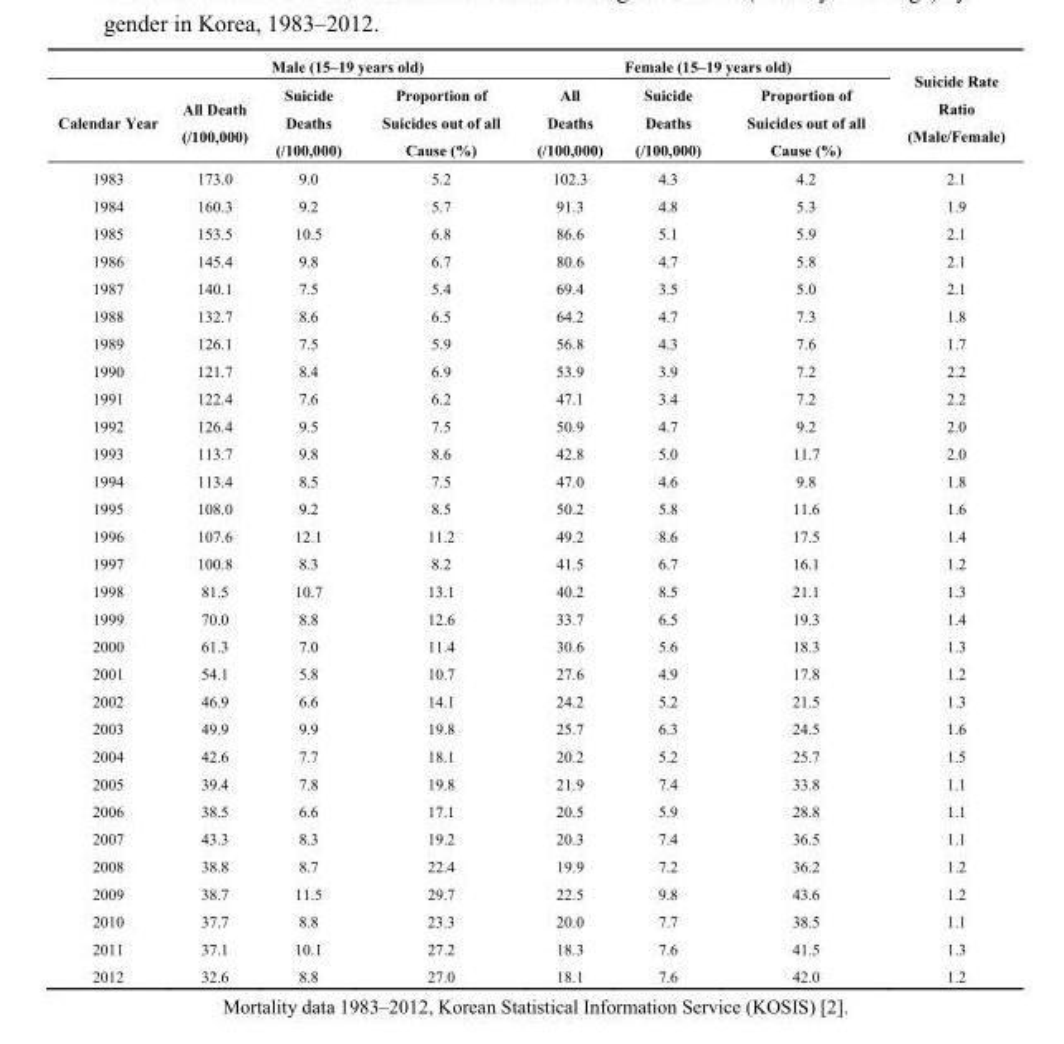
<table><thead><tr><td rowspan="2">Calendar Year</td><td colspan="3">Male (15–19 years old)</td><td colspan="3">Female (15–19 years old)</td><td rowspan="2">Suicide Rate Ratio (Male/Female)</td></tr><tr><td>All Death (/100,000)</td><td>Suicide Deaths (/100,000)</td><td>Proportion of Suicides out of all Cause (%)</td><td>All Deaths (/100,000)</td><td>Suicide Deaths (/100,000)</td><td>Proportion of Suicides out of all Cause (%)</td></tr></thead><tbody><tr><td>1983</td><td>173.0</td><td>9.0</td><td>5.2</td><td>102.3</td><td>4.3</td><td>4.2</td><td>2.1</td></tr><tr><td>1984</td><td>160.3</td><td>9.2</td><td>5.7</td><td>91.3</td><td>4.8</td><td>5.3</td><td>1.9</td></tr><tr><td>1985</td><td>153.5</td><td>10.5</td><td>6.8</td><td>86.6</td><td>5.1</td><td>5.9</td><td>2.1</td></tr><tr><td>1986</td><td>145.4</td><td>9.8</td><td>6.7</td><td>80.6</td><td>4.7</td><td>5.8</td><td>2.1</td></tr><tr><td>1987</td><td>140.1</td><td>7.5</td><td>5.4</td><td>69.4</td><td>3.5</td><td>5.0</td><td>2.1</td></tr><tr><td>1988</td><td>132.7</td><td>8.6</td><td>6.5</td><td>64.2</td><td>4.7</td><td>7.3</td><td>1.8</td></tr><tr><td>1989</td><td>126.1</td><td>7.5</td><td>5.9</td><td>56.8</td><td>4.3</td><td>7.6</td><td>1.7</td></tr><tr><td>1990</td><td>121.7</td><td>8.4</td><td>6.9</td><td>53.9</td><td>3.9</td><td>7.2</td><td>2.2</td></tr><tr><td>1991</td><td>122.4</td><td>7.6</td><td>6.2</td><td>47.1</td><td>3.4</td><td>7.2</td><td>2.2</td></tr><tr><td>1992</td><td>126.4</td><td>9.5</td><td>7.5</td><td>50.9</td><td>4.7</td><td>9.2</td><td>2.0</td></tr><tr><td>1993</td><td>113.7</td><td>9.8</td><td>8.6</td><td>42.8</td><td>5.0</td><td>11.7</td><td>2.0</td></tr><tr><td>1994</td><td>113.4</td><td>8.5</td><td>7.5</td><td>47.0</td><td>4.6</td><td>9.8</td><td>1.8</td></tr><tr><td>1995</td><td>108.0</td><td>9.2</td><td>8.5</td><td>50.2</td><td>5.8</td><td>11.6</td><td>1.6</td></tr><tr><td>1996</td><td>107.6</td><td>12.1</td><td>11.2</td><td>49.2</td><td>8.6</td><td>17.5</td><td>1.4</td></tr><tr><td>1997</td><td>100.8</td><td>8.3</td><td>8.2</td><td>41.5</td><td>6.7</td><td>16.1</td><td>1.2</td></tr><tr><td>1998</td><td>81.5</td><td>10.7</td><td>13.1</td><td>40.2</td><td>8.5</td><td>21.1</td><td>1.3</td></tr><tr><td>1999</td><td>70.0</td><td>8.8</td><td>12.6</td><td>33.7</td><td>6.5</td><td>19.3</td><td>1.4</td></tr><tr><td>2000</td><td>61.3</td><td>7.0</td><td>11.4</td><td>30.6</td><td>5.6</td><td>18.3</td><td>1.3</td></tr><tr><td>2001</td><td>54.1</td><td>5.8</td><td>10.7</td><td>27.6</td><td>4.9</td><td>17.8</td><td>1.2</td></tr><tr><td>2002</td><td>46.9</td><td>6.6</td><td>14.1</td><td>24.2</td><td>5.2</td><td>21.5</td><td>1.3</td></tr><tr><td>2003</td><td>49.9</td><td>9.9</td><td>19.8</td><td>25.7</td><td>6.3</td><td>24.5</td><td>1.6</td></tr><tr><td>2004</td><td>42.6</td><td>7.7</td><td>18.1</td><td>20.2</td><td>5.2</td><td>25.7</td><td>1.5</td></tr><tr><td>2005</td><td>39.4</td><td>7.8</td><td>19.8</td><td>21.9</td><td>7.4</td><td>33.8</td><td>1.1</td></tr><tr><td>2006</td><td>38.5</td><td>6.6</td><td>17.1</td><td>20.5</td><td>5.9</td><td>28.8</td><td>1.1</td></tr><tr><td>2007</td><td>43.3</td><td>8.3</td><td>19.2</td><td>20.3</td><td>7.4</td><td>36.5</td><td>1.1</td></tr><tr><td>2008</td><td>38.8</td><td>8.7</td><td>22.4</td><td>19.9</td><td>7.2</td><td>36.2</td><td>1.2</td></tr><tr><td>2009</td><td>38.7</td><td>11.5</td><td>29.7</td><td>22.5</td><td>9.8</td><td>43.6</td><td>1.2</td></tr><tr><td>2010</td><td>37.7</td><td>8.8</td><td>23.3</td><td>20.0</td><td>7.7</td><td>38.5</td><td>1.1</td></tr><tr><td>2011</td><td>37.1</td><td>10.1</td><td>27.2</td><td>18.3</td><td>7.6</td><td>41.5</td><td>1.3</td></tr><tr><td>2012</td><td>32.6</td><td>8.8</td><td>27.0</td><td>18.1</td><td>7.6</td><td>42.0</td><td>1.2</td></tr></tbody></table>